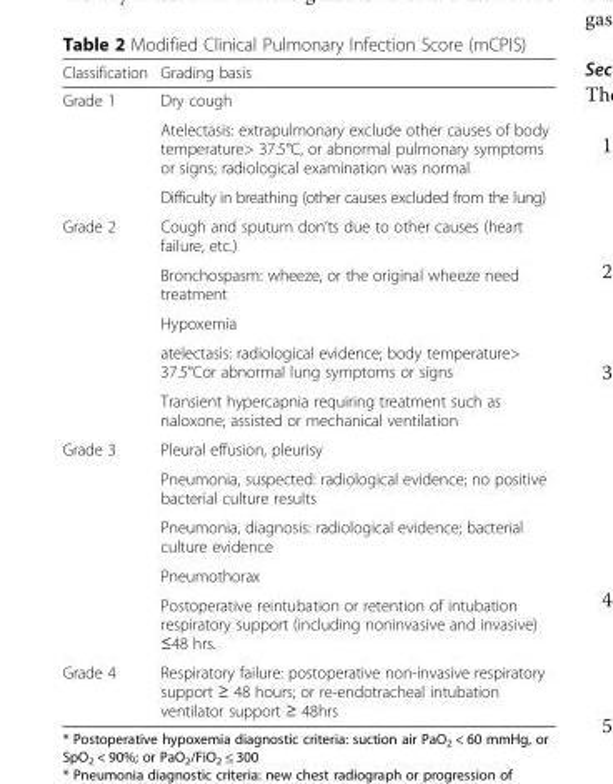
<table><thead><tr><td>Classification</td><td>Grading basis</td></tr></thead><tbody><tr><td rowspan="3">Grade 1</td><td>Dry cough</td></tr><tr><td>Atelectasis: extrapulmonary exclude other causes of body temperature&gt; 37.5°C, or abnormal pulmonary symptoms or signs; radiological examination was normal</td></tr><tr><td>Difficulty in breathing (other causes excluded from the lung)</td></tr><tr><td rowspan="5">Grade 2</td><td>Cough and sputum don’ts due to other causes (heart failure, etc.)</td></tr><tr><td>Bronchospasm: wheeze, or the original wheeze need treatment</td></tr><tr><td>Hypoxemia</td></tr><tr><td>atelectasis: radiological evidence; body temperature&gt; 37.5°Cor abnormal lung symptoms or signs</td></tr><tr><td>Transient hypercapnia requiring treatment such as naloxone; assisted or mechanical ventilation</td></tr><tr><td rowspan="5">Grade 3</td><td>Pleural effusion, pleurisy</td></tr><tr><td>Pneumonia, suspected: radiological evidence; no positive bacterial culture results</td></tr><tr><td>Pneumonia, diagnosis: radiological evidence; bacterial culture evidence</td></tr><tr><td>Pneumothorax</td></tr><tr><td>Postoperative reintubation or retention of intubation respiratory support (including noninvasive and invasive) ≤48 hrs.</td></tr><tr><td>Grade 4</td><td>Respiratory failure: postoperative non-invasive respiratory support ≥ 48 hours; or re-endotracheal intubation ventilator support ≥ 48hrs</td></tr></tbody></table>